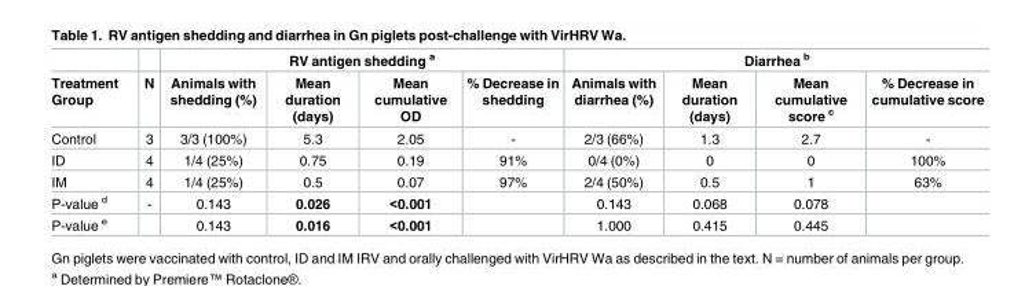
<table><thead><tr><td rowspan="2">Treatment Group</td><td rowspan="2">N</td><td colspan="4">RV antigen shedding <sup>a</sup></td><td colspan="4">Diarrhea <sup>b</sup></td></tr><tr><td>Animals with shedding (%)</td><td>Mean duration (days)</td><td>Mean cumulative OD</td><td>% Decrease in shedding</td><td>Animals with diarrhea (%)</td><td>Mean duration (days)</td><td>Mean cumulative score <sup>c</sup></td><td>% Decrease in cumulative score</td></tr></thead><tbody><tr><td>Control</td><td>3</td><td>3/3 (100%)</td><td>5.3</td><td>2.05</td><td>-</td><td>2/3 (66%)</td><td>1.3</td><td>2.7</td><td>-</td></tr><tr><td>ID</td><td>4</td><td>1/4 (25%)</td><td>0.75</td><td>0.19</td><td>91%</td><td>0/4 (0%)</td><td>0</td><td>0</td><td>100%</td></tr><tr><td>IM</td><td>4</td><td>1/4 (25%)</td><td>0.5</td><td>0.07</td><td>97%</td><td>2/4 (50%)</td><td>0.5</td><td>1</td><td>63%</td></tr><tr><td>P-value <sup>d</sup></td><td>-</td><td>0.143</td><td>0.026</td><td>&lt;0.001</td><td></td><td>0.143</td><td>0.068</td><td>0.078</td><td></td></tr><tr><td>P-value <sup>e</sup></td><td></td><td>0.143</td><td>0.016</td><td>&lt;0.001</td><td></td><td>1.000</td><td>0.415</td><td>0.445</td><td></td></tr></tbody></table>